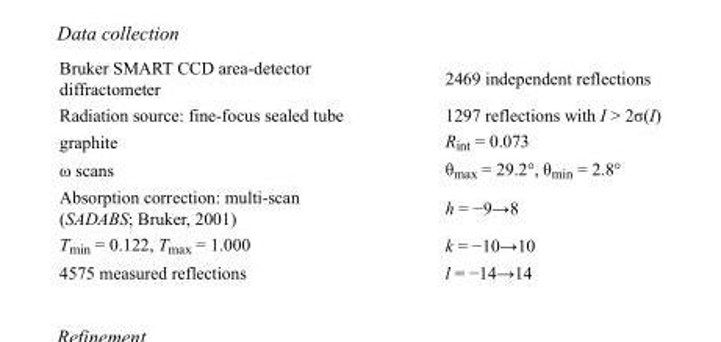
<table><tbody><tr><td>Bruker SMART CCD area-detector diffractometer</td><td>2469 independent reflections</td></tr><tr><td>Radiation source: fine-focus sealed tube</td><td>1297 reflections with I &gt; 2σ(I)</td></tr><tr><td>graphite</td><td>R<sub>int</sub> = 0.073</td></tr><tr><td>ω scans</td><td>θ<sub>max</sub> = 29.2°, θ<sub>min</sub> = 2.8°</td></tr><tr><td>Absorption correction: multi-scan (SADABS; Bruker, 2001)</td><td>h = −9→8</td></tr><tr><td>T<sub>min</sub> = 0.122, T<sub>max</sub> = 1.000</td><td>k = −10→10</td></tr><tr><td>4575 measured reflections</td><td>l = −14→14</td></tr></tbody></table>